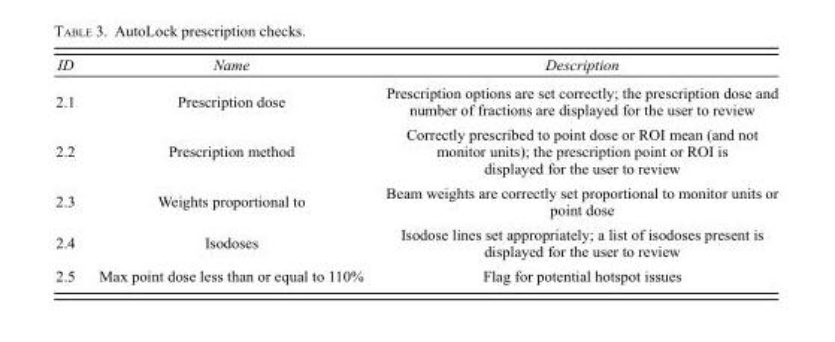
<table><thead><tr><td>ID</td><td>Name</td><td>Description</td></tr></thead><tbody><tr><td>2.1</td><td>Prescription dose</td><td>Prescription options are set correctly; the prescription dose and number of fractions are displayed for the user to review</td></tr><tr><td>2.2</td><td>Prescription method</td><td>Correctly prescribed to point dose or ROI mean (and not monitor units); the prescription point or ROI is displayed for the user to review</td></tr><tr><td>2.3</td><td>Weights proportional to</td><td>Beam weights are correctly set proportional to monitor units or point dose</td></tr><tr><td>2.4</td><td>Isodoses</td><td>Isodose lines set appropriately; a list of isodoses present is displayed for the user to review</td></tr><tr><td>2.5</td><td>Max point dose less than or equal to 110%</td><td>Flag for potential hotspot issues</td></tr></tbody></table>